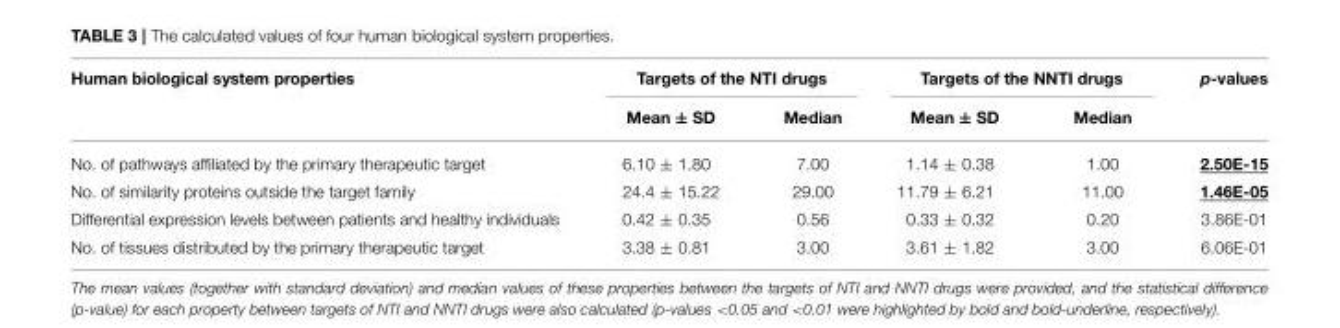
<table><thead><tr><td rowspan="2">Human biological system properties</td><td colspan="2">Targets of the NTI drugs</td><td colspan="2">Targets of the NNTI drugs</td><td rowspan="2">p-values</td></tr><tr><td>Mean ± SD</td><td>Median</td><td>Mean ± SD</td><td>Median</td></tr></thead><tbody><tr><td>No. of pathways affiliated by the primary therapeutic target</td><td>6.10 ± 1.80</td><td>7.00</td><td>1.14 ± 0.38</td><td>1.00</td><td>2.50E-15</td></tr><tr><td>No. of similarity proteins outside the target family</td><td>24.4 ± 15.22</td><td>29.00</td><td>11.79 ± 6.21</td><td>11.00</td><td>1.46E-05</td></tr><tr><td>Differential expression levels between patients and healthy individuals</td><td>0.42 ± 0.35</td><td>0.56</td><td>0.33 ± 0.32</td><td>0.20</td><td>3.86E-01</td></tr><tr><td>No. of tissues distributed by the primary therapeutic target</td><td>3.38 ± 0.81</td><td>3.00</td><td>3.61 ± 1.82</td><td>3.00</td><td>6.06E-01</td></tr></tbody></table>